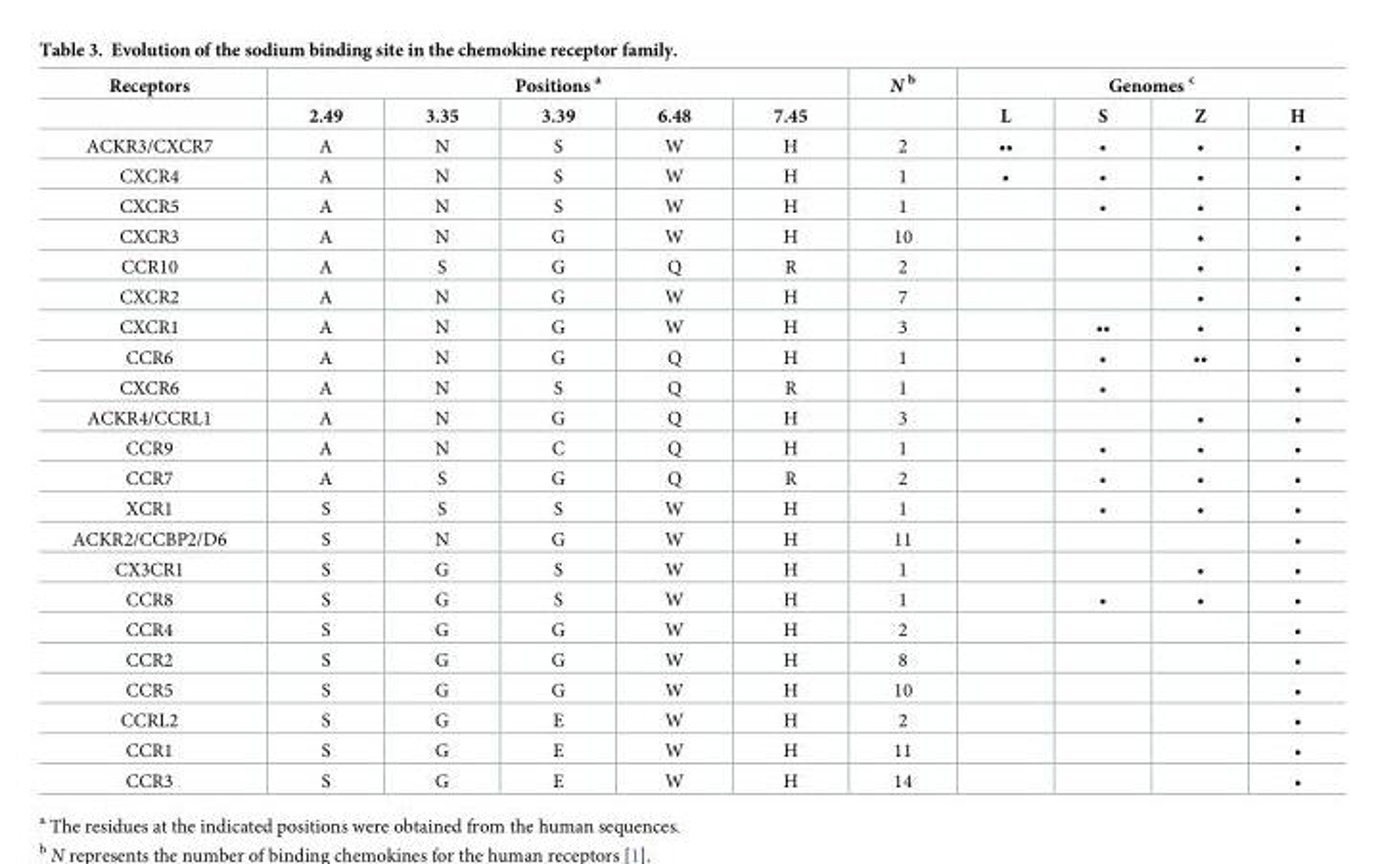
<table><thead><tr><td rowspan="2">Receptors</td><td colspan="5">Positions <sup>a</sup></td><td rowspan="2">N <sup>b</sup></td><td colspan="4">Genomes <sup>c</sup></td></tr><tr><td>2.49</td><td>3.35</td><td>3.39</td><td>6.48</td><td>7.45</td><td>L</td><td>S</td><td>Z</td><td>H</td></tr></thead><tbody><tr><td>ACKR3/CXCR7</td><td>A</td><td>N</td><td>S</td><td>W</td><td>H</td><td>2</td><td>••</td><td>•</td><td>•</td><td>•</td></tr><tr><td>CXCR4</td><td>A</td><td>N</td><td>S</td><td>W</td><td>H</td><td>1</td><td>•</td><td>•</td><td>•</td><td>•</td></tr><tr><td>CXCR5</td><td>A</td><td>N</td><td>S</td><td>W</td><td>H</td><td>1</td><td></td><td>•</td><td>•</td><td>•</td></tr><tr><td>CXCR3</td><td>A</td><td>N</td><td>G</td><td>W</td><td>H</td><td>10</td><td></td><td></td><td>•</td><td>•</td></tr><tr><td>CCR10</td><td>A</td><td>S</td><td>G</td><td>Q</td><td>R</td><td>2</td><td></td><td></td><td>•</td><td>•</td></tr><tr><td>CXCR2</td><td>A</td><td>N</td><td>G</td><td>W</td><td>H</td><td>7</td><td></td><td></td><td>•</td><td>•</td></tr><tr><td>CXCR1</td><td>A</td><td>N</td><td>G</td><td>W</td><td>H</td><td>3</td><td></td><td>••</td><td>•</td><td>•</td></tr><tr><td>CCR6</td><td>A</td><td>N</td><td>G</td><td>Q</td><td>H</td><td>1</td><td></td><td>•</td><td>••</td><td>•</td></tr><tr><td>CXCR6</td><td>A</td><td>N</td><td>S</td><td>Q</td><td>R</td><td>1</td><td></td><td>•</td><td></td><td>•</td></tr><tr><td>ACKR4/CCRL1</td><td>A</td><td>N</td><td>G</td><td>Q</td><td>H</td><td>3</td><td></td><td></td><td>•</td><td>•</td></tr><tr><td>CCR9</td><td>A</td><td>N</td><td>C</td><td>Q</td><td>H</td><td>1</td><td></td><td>•</td><td>•</td><td>•</td></tr><tr><td>CCR7</td><td>A</td><td>S</td><td>G</td><td>Q</td><td>R</td><td>2</td><td></td><td>•</td><td>•</td><td>•</td></tr><tr><td>XCR1</td><td>S</td><td>S</td><td>S</td><td>W</td><td>H</td><td>1</td><td></td><td>•</td><td>•</td><td>•</td></tr><tr><td>ACKR2/CCBP2/D6</td><td>S</td><td>N</td><td>G</td><td>W</td><td>H</td><td>11</td><td></td><td></td><td></td><td>•</td></tr><tr><td>CX3CR1</td><td>S</td><td>G</td><td>S</td><td>W</td><td>H</td><td>1</td><td></td><td></td><td>•</td><td>•</td></tr><tr><td>CCR8</td><td>S</td><td>G</td><td>S</td><td>W</td><td>H</td><td>1</td><td></td><td>•</td><td>•</td><td>•</td></tr><tr><td>CCR4</td><td>S</td><td>G</td><td>G</td><td>W</td><td>H</td><td>2</td><td></td><td></td><td></td><td>•</td></tr><tr><td>CCR2</td><td>S</td><td>G</td><td>G</td><td>W</td><td>H</td><td>8</td><td></td><td></td><td></td><td>•</td></tr><tr><td>CCR5</td><td>S</td><td>G</td><td>G</td><td>W</td><td>H</td><td>10</td><td></td><td></td><td></td><td>•</td></tr><tr><td>CCRL2</td><td>S</td><td>G</td><td>E</td><td>W</td><td>H</td><td>2</td><td></td><td></td><td></td><td>•</td></tr><tr><td>CCR1</td><td>S</td><td>G</td><td>E</td><td>W</td><td>H</td><td>11</td><td></td><td></td><td></td><td>•</td></tr><tr><td>CCR3</td><td>S</td><td>G</td><td>E</td><td>W</td><td>H</td><td>14</td><td></td><td></td><td></td><td>•</td></tr></tbody></table>